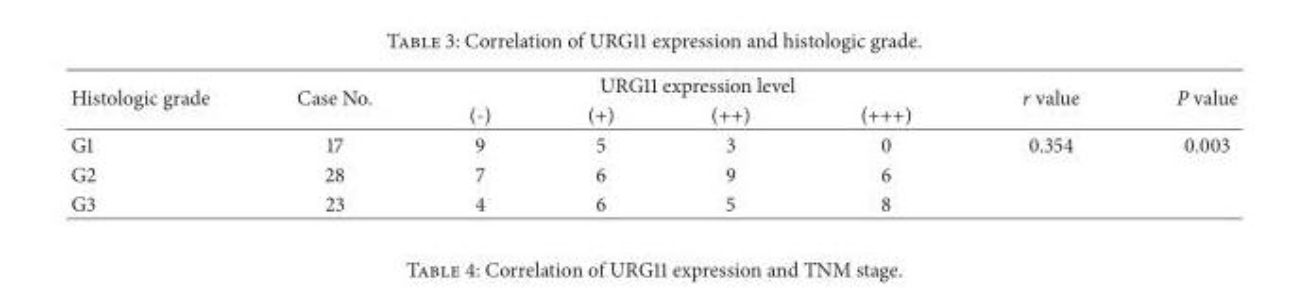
<table><thead><tr><td rowspan="2">Histologic grade</td><td rowspan="2">Case No.</td><td colspan="4">URG11 expression level</td><td rowspan="2">r value</td><td rowspan="2">P value</td></tr><tr><td>(-)</td><td>(+)</td><td>(++)</td><td>(+++)</td></tr></thead><tbody><tr><td>G1</td><td>17</td><td>9</td><td>5</td><td>3</td><td>0</td><td>0.354</td><td>0.003</td></tr><tr><td>G2</td><td>28</td><td>7</td><td>6</td><td>9</td><td>6</td><td></td><td></td></tr><tr><td>G3</td><td>23</td><td>4</td><td>6</td><td>5</td><td>8</td><td></td><td></td></tr></tbody></table>